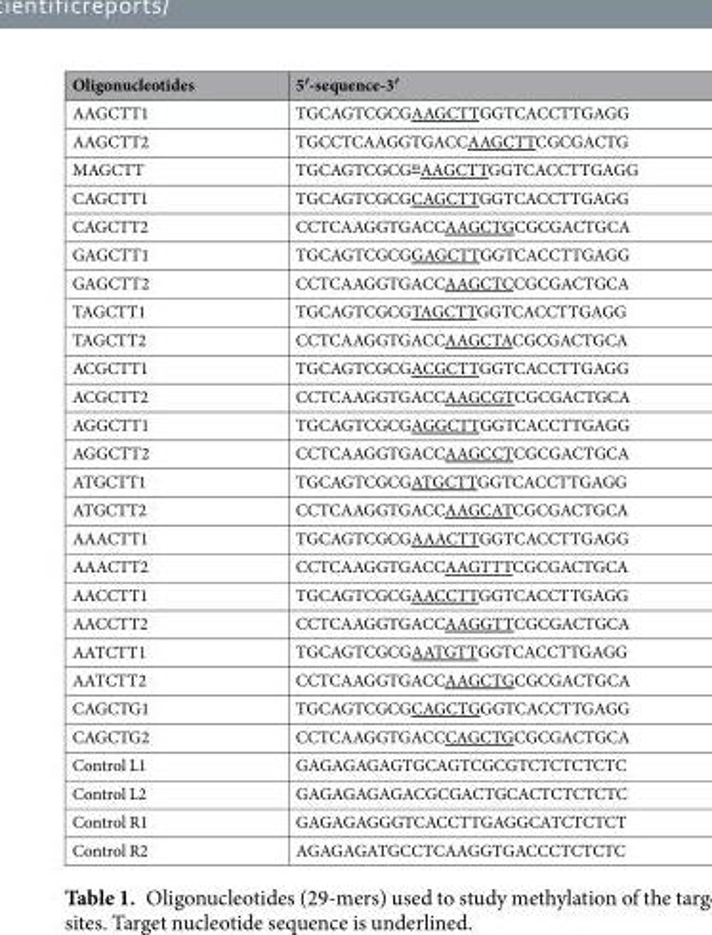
<table><thead><tr><td>Oligonucleotides</td><td>5′-sequence-3′</td></tr></thead><tbody><tr><td>AAGCTT1</td><td>TGCAGTCGCGAAGCTTGGTCACCTTGAGG</td></tr><tr><td>AAGCTT2</td><td>TGCCTCAAGGTGACCAAGCTTCGCGACTG</td></tr><tr><td>MAGCTT</td><td>TGCAGTCGCG<sup>m</sup>AAGCTTGGTCACCTTGAGG</td></tr><tr><td>CAGCTT1</td><td>TGCAGTCGCGCAGCTTGGTCACCTTGAGG</td></tr><tr><td>CAGCTT2</td><td>CCTCAAGGTGACCAAGCTGCGCGACTGCA</td></tr><tr><td>GAGCTT1</td><td>TGCAGTCGCGGAGCTTGGTCACCTTGAGG</td></tr><tr><td>GAGCTT2</td><td>CCTCAAGGTGACCAAGCTCCGCGACTGCA</td></tr><tr><td>TAGCTT1</td><td>TGCAGTCGCGTAGCTTGGTCACCTTGAGG</td></tr><tr><td>TAGCTT2</td><td>CCTCAAGGTGACCAAGCTACGCGACTGCA</td></tr><tr><td>ACGCTT1</td><td>TGCAGTCGCGACGCTTGGTCACCTTGAGG</td></tr><tr><td>ACGCTT2</td><td>CCTCAAGGTGACCAAGCGTCGCGACTGCA</td></tr><tr><td>AGGCTT1</td><td>TGCAGTCGCGAGGCTTGGTCACCTTGAGG</td></tr><tr><td>AGGCTT2</td><td>CCTCAAGGTGACCAAGCCTCGCGACTGCA</td></tr><tr><td>ATGCTT1</td><td>TGCAGTCGCGATGCTTGGTCACCTTGAGG</td></tr><tr><td>ATGCTT2</td><td>CCTCAAGGTGACCAAGCATCGCGACTGCA</td></tr><tr><td>AAACTT1</td><td>TGCAGTCGCGAAACTTGGTCACCTTGAGG</td></tr><tr><td>AAACTT2</td><td>CCTCAAGGTGACCAAGTTTCGCGACTGCA</td></tr><tr><td>AACCTT1</td><td>TGCAGTCGCGAACCTTGGTCACCTTGAGG</td></tr><tr><td>AACCTT2</td><td>CCTCAAGGTGACCAAGGTTCGCGACTGCA</td></tr><tr><td>AATCTT1</td><td>TGCAGTCGCGAATGTTGGTCACCTTGAGG</td></tr><tr><td>AATCTT2</td><td>CCTCAAGGTGACCAAGCTGCGCGACTGCA</td></tr><tr><td>CAGCTG1</td><td>TGCAGTCGCGCAGCTGGGTCACCTTGAGG</td></tr><tr><td>CAGCTG2</td><td>CCTCAAGGTGACCCAGCTGCGCGACTGCA</td></tr><tr><td>Control L1</td><td>GAGAGAGAGTGCAGTCGCGTCTCTCTCTC</td></tr><tr><td>Control L2</td><td>GAGAGAGAGACGCGACTGCACTCTCTCTC</td></tr><tr><td>Control R1</td><td>GAGAGAGGGTCACCTTGAGGCATCTCTCT</td></tr><tr><td>Control R2</td><td>AGAGAGATGCCTCAAGGTGACCCTCTCTC</td></tr></tbody></table>